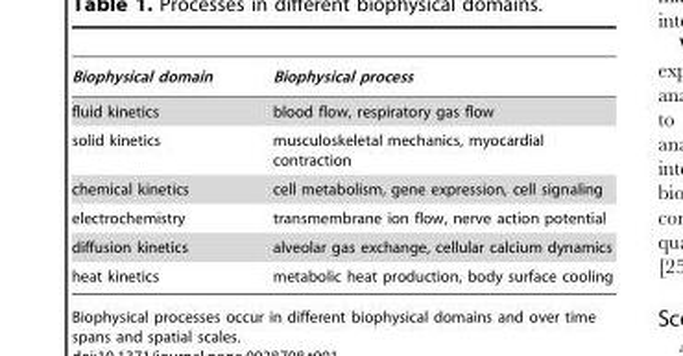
<table><thead><tr><td>Biophysical domain</td><td>Biophysical process</td></tr></thead><tbody><tr><td>fluid kinetics</td><td>blood flow, respiratory gas flow</td></tr><tr><td>solid kinetics</td><td>musculoskeletal mechanics, myocardial contraction</td></tr><tr><td>chemical kinetics</td><td>cell metabolism, gene expression, cell signaling</td></tr><tr><td>electrochemistry</td><td>transmembrane ion flow, nerve action potential</td></tr><tr><td>diffusion kinetics</td><td>alveolar gas exchange, cellular calcium dynamics</td></tr><tr><td>heat kinetics</td><td>metabolic heat production, body surface cooling</td></tr></tbody></table>